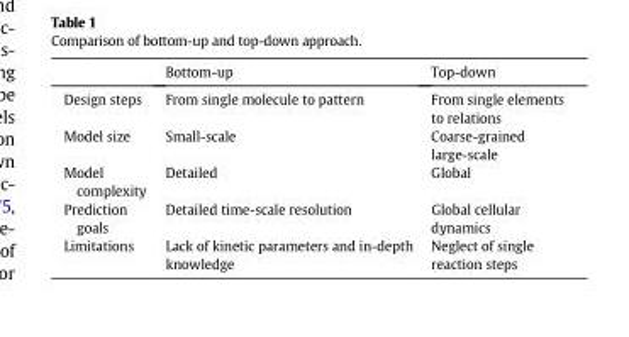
<table><thead><tr><td></td><td>Bottom-up</td><td>Top-down</td></tr></thead><tbody><tr><td>Design steps</td><td>From single molecule to pattern</td><td>From single elements to relations</td></tr><tr><td>Model size</td><td>Small-scale</td><td>Coarse-grained large-scale</td></tr><tr><td>Model complexity</td><td>Detailed</td><td>Global</td></tr><tr><td>Prediction goals</td><td>Detailed time-scale resolution</td><td>Global cellular dynamics</td></tr><tr><td>Limitations</td><td>Lack of kinetic parameters and in-depth knowledge</td><td>Neglect of single reaction steps</td></tr></tbody></table>